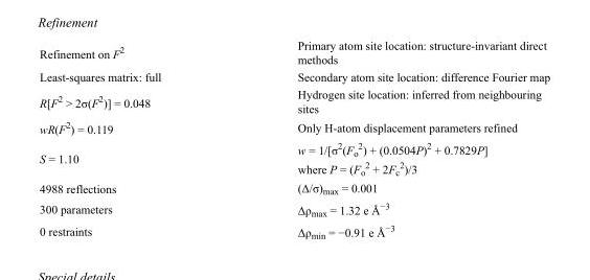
<table><tbody><tr><td>Refinement on F<sup>2</sup></td><td>Primary atom site location: structure-invariant direct methods</td></tr><tr><td>Least-squares matrix: full</td><td>Secondary atom site location: difference Fourier map</td></tr><tr><td>R[F<sup>2</sup> &gt; 2σ(F<sup>2</sup>)] = 0.048</td><td>Hydrogen site location: inferred from neighbouring sites</td></tr><tr><td>wR(F<sup>2</sup>) = 0.119</td><td>Only H-atom displacement parameters refined</td></tr><tr><td>S = 1.10</td><td>w = 1/[σ<sup>2</sup>(F<sub>o</sub> <sup>2</sup>) + (0.0504P)<sup>2</sup> + 0.7829P] where P = (F<sub>o</sub> <sup>2</sup> + 2F<sub>c</sub> <sup>2</sup>)/3</td></tr><tr><td>4988 reflections</td><td>(Δ/σ)<sub>max</sub> = 0.001</td></tr><tr><td>300 parameters</td><td>Δρ<sub>max</sub> = 1.32 e Å<sup>−3</sup></td></tr><tr><td>0 restraints</td><td>Δρ<sub>min</sub> = −0.91 e Å<sup>−3</sup></td></tr></tbody></table>